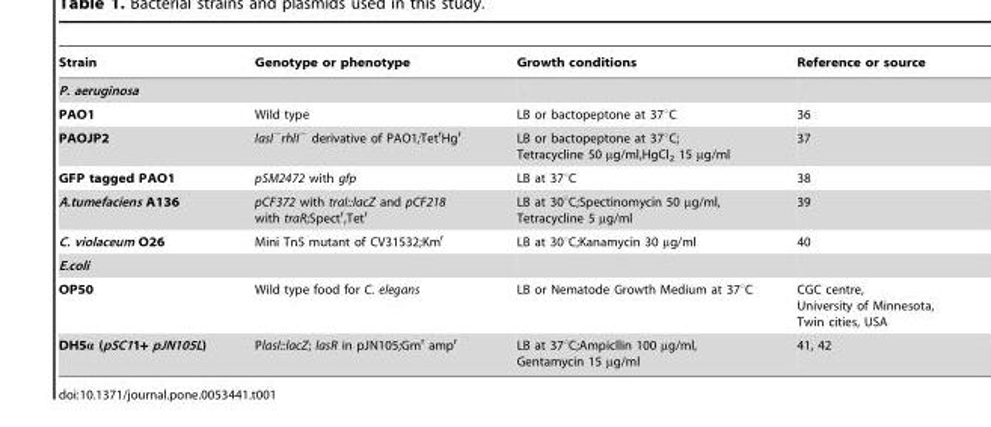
<table><thead><tr><td>Strain</td><td>Genotype or phenotype</td><td>Growth conditions</td><td>Reference or source</td></tr></thead><tbody><tr><td colspan="4">P. aeruginosa</td></tr><tr><td>PAO1</td><td>Wild type</td><td>LB or bactopeptone at 37°C</td><td>36</td></tr><tr><td>PAOJP2</td><td>lasI<sup>−</sup>rhlI<sup>−</sup> derivative of PAO1;Tet<sup>r</sup>Hg<sup>r</sup></td><td>LB or bactopeptone at 37°C; Tetracycline 50 µg/ml,HgCl<sub>2</sub> 15 µg/ml</td><td>37</td></tr><tr><td>GFP tagged PAO1</td><td>pSM2472 with gfp</td><td>LB at 37°C</td><td>38</td></tr><tr><td>A.tumefaciens A136</td><td>pCF372 with traI::lacZ and pCF218 with traR;Spect<sup>r</sup>,Tet<sup>r</sup></td><td>LB at 30°C;Spectinomycin 50 µg/ml, Tetracycline 5 µg/ml</td><td>39</td></tr><tr><td>C. violaceum O26</td><td>Mini Tn5 mutant of CV31532;Km<sup>r</sup></td><td>LB at 30°C;Kanamycin 30 µg/ml</td><td>40</td></tr><tr><td colspan="4">E.coli</td></tr><tr><td>OP50</td><td>Wild type food for C. elegans</td><td>LB or Nematode Growth Medium at 37°C</td><td>CGC centre, University of Minnesota, Twin cities, USA</td></tr><tr><td>DH5α (pSC11+ pJN105L)</td><td>PlasI::lacZ; lasR in pJN105;Gm<sup>r</sup> amp<sup>r</sup></td><td>LB at 37°C;Ampicllin 100 µg/ml, Gentamycin 15 µg/ml</td><td>41, 42</td></tr></tbody></table>